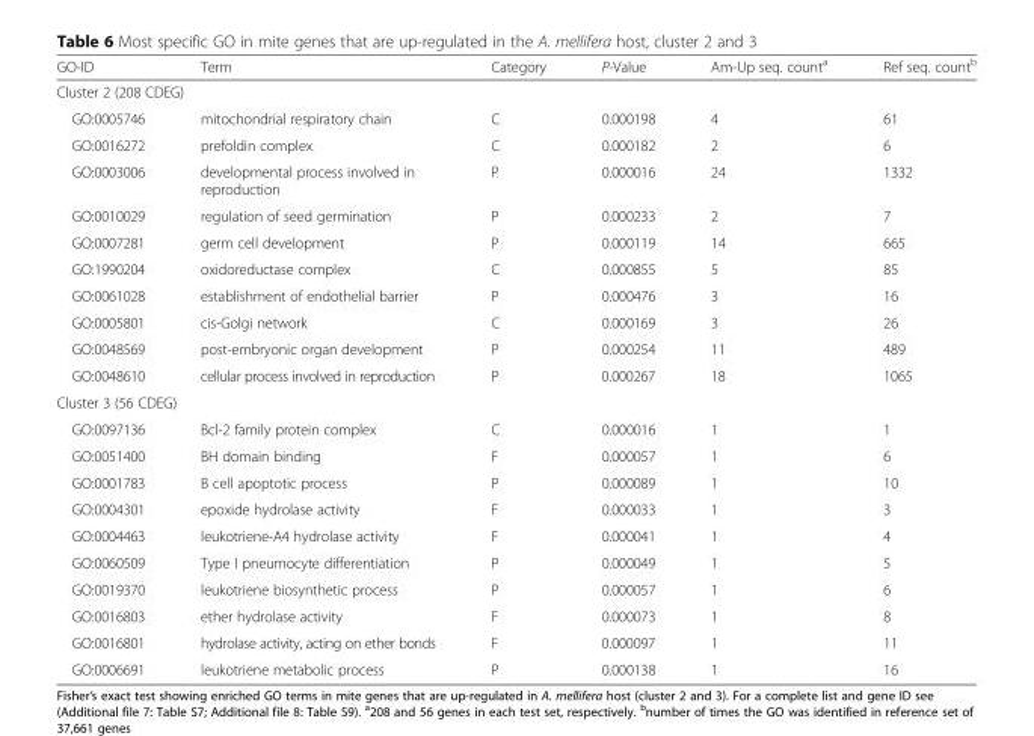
<table><thead><tr><td>GO-ID</td><td>Term</td><td>Category</td><td>P-Value</td><td>Am-Up seq. count<sup>a</sup></td><td>Ref seq. count<sup>b</sup></td></tr></thead><tbody><tr><td colspan="6">Cluster 2 (208 CDEG)</td></tr><tr><td>GO:0005746</td><td>mitochondrial respiratory chain</td><td>C</td><td>0.000198</td><td>4</td><td>61</td></tr><tr><td>GO:0016272</td><td>prefoldin complex</td><td>C</td><td>0.000182</td><td>2</td><td>6</td></tr><tr><td>GO:0003006</td><td>developmental process involved in reproduction</td><td>P</td><td>0.000016</td><td>24</td><td>1332</td></tr><tr><td>GO:0010029</td><td>regulation of seed germination</td><td>P</td><td>0.000233</td><td>2</td><td>7</td></tr><tr><td>GO:0007281</td><td>germ cell development</td><td>P</td><td>0.000119</td><td>14</td><td>665</td></tr><tr><td>GO:1990204</td><td>oxidoreductase complex</td><td>C</td><td>0.000855</td><td>5</td><td>85</td></tr><tr><td>GO:0061028</td><td>establishment of endothelial barrier</td><td>P</td><td>0.000476</td><td>3</td><td>16</td></tr><tr><td>GO:0005801</td><td>cis-Golgi network</td><td>C</td><td>0.000169</td><td>3</td><td>26</td></tr><tr><td>GO:0048569</td><td>post-embryonic organ development</td><td>P</td><td>0.000254</td><td>11</td><td>489</td></tr><tr><td>GO:0048610</td><td>cellular process involved in reproduction</td><td>P</td><td>0.000267</td><td>18</td><td>1065</td></tr><tr><td colspan="6">Cluster 3 (56 CDEG)</td></tr><tr><td>GO:0097136</td><td>Bcl-2 family protein complex</td><td>C</td><td>0.000016</td><td>1</td><td>1</td></tr><tr><td>GO:0051400</td><td>BH domain binding</td><td>F</td><td>0.000057</td><td>1</td><td>6</td></tr><tr><td>GO:0001783</td><td>B cell apoptotic process</td><td>P</td><td>0.000089</td><td>1</td><td>10</td></tr><tr><td>GO:0004301</td><td>epoxide hydrolase activity</td><td>F</td><td>0.000033</td><td>1</td><td>3</td></tr><tr><td>GO:0004463</td><td>leukotriene-A4 hydrolase activity</td><td>F</td><td>0.000041</td><td>1</td><td>4</td></tr><tr><td>GO:0060509</td><td>Type I pneumocyte differentiation</td><td>P</td><td>0.000049</td><td>1</td><td>5</td></tr><tr><td>GO:0019370</td><td>leukotriene biosynthetic process</td><td>P</td><td>0.000057</td><td>1</td><td>6</td></tr><tr><td>GO:0016803</td><td>ether hydrolase activity</td><td>F</td><td>0.000073</td><td>1</td><td>8</td></tr><tr><td>GO:0016801</td><td>hydrolase activity, acting on ether bonds</td><td>F</td><td>0.000097</td><td>1</td><td>11</td></tr><tr><td>GO:0006691</td><td>leukotriene metabolic process</td><td>P</td><td>0.000138</td><td>1</td><td>16</td></tr></tbody></table>